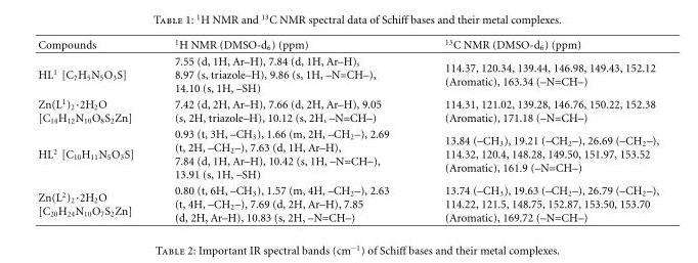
<table><thead><tr><td>Compounds</td><td><sup>1</sup>H NMR (DMSO-d<sub>6</sub>) (ppm)</td><td><sup>13</sup>C NMR (DMSO-d<sub>6</sub>) (ppm)</td></tr></thead><tbody><tr><td>HL<sup>1</sup> [C<sub>7</sub>H<sub>5</sub>N<sub>5</sub>O<sub>3</sub>S]</td><td>7.55 (d, 1H, Ar–H), 7.84 (d, 1H, Ar–H), 8.97 (s, triazole–H), 9.86 (s, 1H, –N=CH–), 14.10 (s, 1H, –SH)</td><td>114.37, 120.34, 139.44, 146.98, 149.43, 152.12 (Aromatic), 163.34 (–N=CH–)</td></tr><tr><td>Zn(L<sup>1</sup>)<sub>2</sub>·2H<sub>2</sub>O [C<sub>14</sub>H<sub>12</sub>N<sub>10</sub>O<sub>8</sub>S<sub>2</sub>Zn]</td><td>7.42 (d, 2H, Ar–H), 7.66 (d, 2H, Ar–H), 9.05 (s, 2H, triazole–H), 10.12 (s, 2H, –N=CH–)</td><td>114.31, 121.02, 139.28, 146.76, 150.22, 152.38 (Aromatic), 171.18 (–N=CH–)</td></tr><tr><td>HL<sup>2</sup> [C<sub>10</sub>H<sub>11</sub>N<sub>5</sub>O<sub>3</sub>S]</td><td>0.93 (t, 3H, –CH<sub>3</sub>), 1.66 (m, 2H, –CH<sub>2</sub>–), 2.69 (t, 2H, –CH<sub>2</sub>–), 7.63 (d, 1H, Ar–H), 7.84 (d, 1H, Ar–H), 10.42 (s, 1H, –N=CH–), 13.91 (s, 1H, –SH)</td><td>13.84 (–CH<sub>3</sub>), 19.21 (–CH<sub>2</sub>–), 26.69 (–CH<sub>2</sub>–), 114.32, 120.4, 148.28, 149.50, 151.97, 153.52 (Aromatic), 161.9 (–N=CH–)</td></tr><tr><td>Zn(L<sup>2</sup>)<sub>2</sub>·2H<sub>2</sub>O [C<sub>20</sub>H<sub>24</sub>N<sub>10</sub>O<sub>7</sub>S<sub>2</sub>Zn]</td><td>0.80 (t, 6H, –CH<sub>3</sub>), 1.57 (m, 4H, –CH<sub>2</sub>–), 2.63 (t, 4H, –CH<sub>2</sub>–), 7.69 (d, 2H, Ar–H), 7.85 (d, 2H, Ar–H), 10.83 (s, 2H, –N=CH–)</td><td>13.74 (–CH<sub>3</sub>), 19.63 (–CH<sub>2</sub>–), 26.79 (–CH<sub>2</sub>–), 114.22, 121.5, 148.75, 152.87, 153.50, 153.70 (Aromatic), 169.72 (–N=CH–)</td></tr></tbody></table>